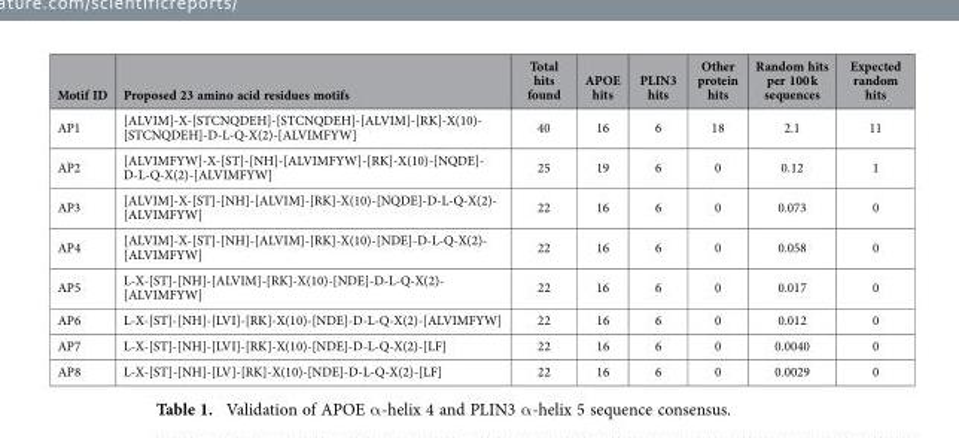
<table><thead><tr><td>Motif ID</td><td>Proposed 23 amino acid residues motifs</td><td>Total hits found</td><td>APOE hits</td><td>PLIN3 hits</td><td>Other protein hits</td><td>Random hits per 100 k sequences</td><td>Expected random hits</td></tr></thead><tbody><tr><td>AP1</td><td>[ALVIM]-X-[STCNQDEH]-[STCNQDEH]-[ALVIM]-[RK]-X(10)- [STCNQDEH]-D-L-Q-X(2)-[ALVIMFYW]</td><td>40</td><td>16</td><td>6</td><td>18</td><td>2.1</td><td>11</td></tr><tr><td>AP2</td><td>[ALVIMFYW]-X-[ST]-[NH]-[ALVIMFYW]-[RK]-X(10)-[NQDE]- D-L-Q-X(2)-[ALVIMFYW]</td><td>25</td><td>19</td><td>6</td><td>0</td><td>0.12</td><td>1</td></tr><tr><td>AP3</td><td>[ALVIM]-X-[ST]-[NH]-[ALVIM]-[RK]-X(10)-[NQDE]-D-L-Q-X(2)- [ALVIMFYW]</td><td>22</td><td>16</td><td>6</td><td>0</td><td>0.073</td><td>0</td></tr><tr><td>AP4</td><td>[ALVIM]-X-[ST]-[NH]-[ALVIM]-[RK]-X(10)-[NDE]-D-L-Q-X(2)- [ALVIMFYW]</td><td>22</td><td>16</td><td>6</td><td>0</td><td>0.058</td><td>0</td></tr><tr><td>AP5</td><td>L-X-[ST]-[NH]-[ALVIM]-[RK]-X(10)-[NDE]-D-L-Q-X(2)- [ALVIMFYW]</td><td>22</td><td>16</td><td>6</td><td>0</td><td>0.017</td><td>0</td></tr><tr><td>AP6</td><td>L-X-[ST]-[NH]-[LVI]-[RK]-X(10)-[NDE]-D-L-Q-X(2)-[ALVIMFYW]</td><td>22</td><td>16</td><td>6</td><td>0</td><td>0.012</td><td>0</td></tr><tr><td>AP7</td><td>L-X-[ST]-[NH]-[LVI]-[RK]-X(10)-[NDE]-D-L-Q-X(2)-[LF]</td><td>22</td><td>16</td><td>6</td><td>0</td><td>0.0040</td><td>0</td></tr><tr><td>AP8</td><td>L-X-[ST]-[NH]-[LV]-[RK]-X(10)-[NDE]-D-L-Q-X(2)-[LF]</td><td>22</td><td>16</td><td>6</td><td>0</td><td>0.0029</td><td>0</td></tr></tbody></table>